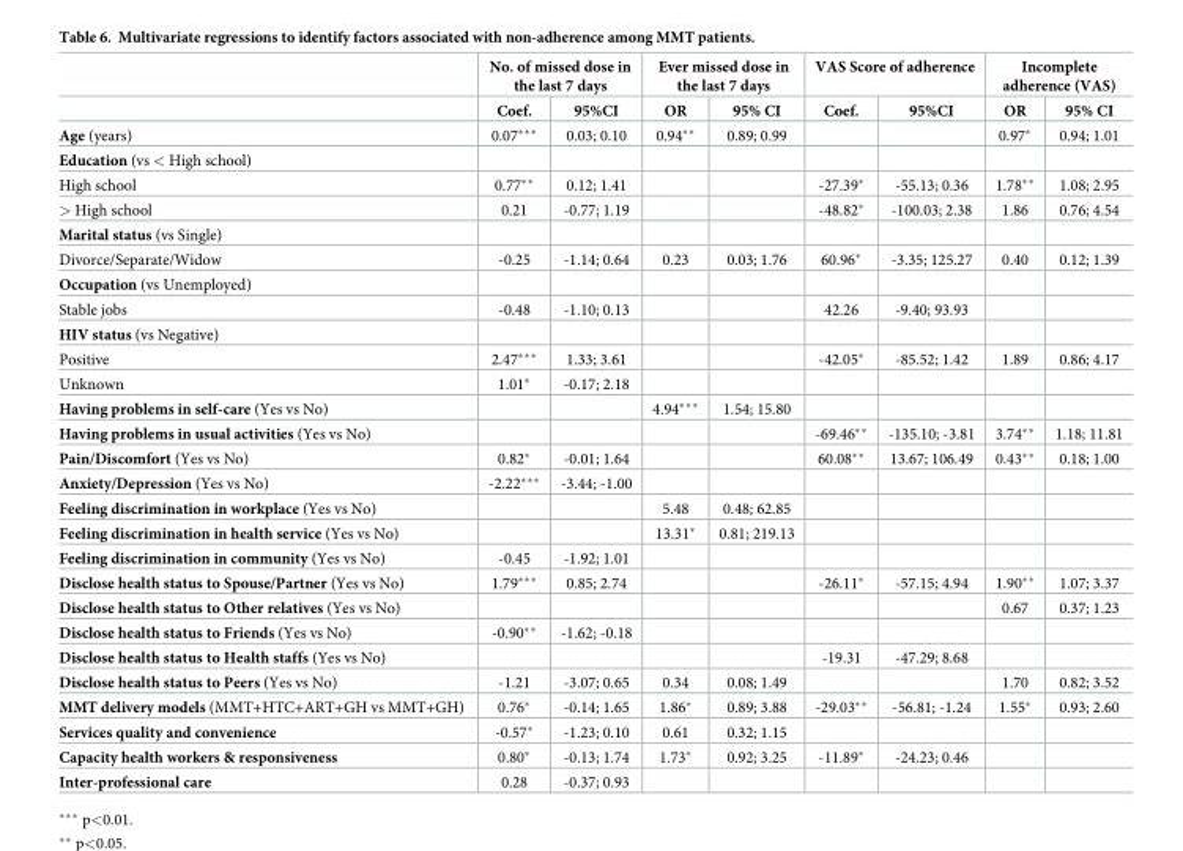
<table><thead><tr><td rowspan="2"></td><td colspan="2">No. of missed dose in the last 7 days</td><td colspan="2">Ever missed dose in the last 7 days</td><td colspan="2">VAS Score of adherence</td><td colspan="2">Incomplete adherence (VAS)</td></tr><tr><td>Coef.</td><td>95%CI</td><td>OR</td><td>95% CI</td><td>Coef.</td><td>95%CI</td><td>OR</td><td>95% CI</td></tr></thead><tbody><tr><td>Age (years)</td><td>0.07***</td><td>0.03; 0.10</td><td>0.94**</td><td>0.89; 0.99</td><td></td><td></td><td>0.97*</td><td>0.94; 1.01</td></tr><tr><td colspan="9">Education (vs &lt; High school)</td></tr><tr><td>High school</td><td>0.77**</td><td>0.12; 1.41</td><td></td><td></td><td>-27.39*</td><td>-55.13; 0.36</td><td>1.78**</td><td>1.08; 2.95</td></tr><tr><td>&gt; High school</td><td>0.21</td><td>-0.77; 1.19</td><td></td><td></td><td>-48.82*</td><td>-100.03; 2.38</td><td>1.86</td><td>0.76; 4.54</td></tr><tr><td colspan="9">Marital status (vs Single)</td></tr><tr><td>Divorce/Separate/Widow</td><td>-0.25</td><td>-1.14; 0.64</td><td>0.23</td><td>0.03; 1.76</td><td>60.96*</td><td>-3.35; 125.27</td><td>0.40</td><td>0.12; 1.39</td></tr><tr><td colspan="9">Occupation (vs Unemployed)</td></tr><tr><td>Stable jobs</td><td>-0.48</td><td>-1.10; 0.13</td><td></td><td></td><td>42.26</td><td>-9.40; 93.93</td><td></td><td></td></tr><tr><td colspan="9">HIV status (vs Negative)</td></tr><tr><td>Positive</td><td>2.47***</td><td>1.33; 3.61</td><td></td><td></td><td>-42.05*</td><td>-85.52; 1.42</td><td>1.89</td><td>0.86; 4.17</td></tr><tr><td>Unknown</td><td>1.01*</td><td>-0.17; 2.18</td><td></td><td></td><td></td><td></td><td></td><td></td></tr><tr><td>Having problems in self-care (Yes vs No)</td><td></td><td></td><td>4.94***</td><td>1.54; 15.80</td><td></td><td></td><td></td><td></td></tr><tr><td>Having problems in usual activities (Yes vs No)</td><td></td><td></td><td></td><td></td><td>-69.46**</td><td>-135.10; -3.81</td><td>3.74**</td><td>1.18; 11.81</td></tr><tr><td>Pain/Discomfort (Yes vs No)</td><td>0.82*</td><td>-0.01; 1.64</td><td></td><td></td><td>60.08**</td><td>13.67; 106.49</td><td>0.43**</td><td>0.18; 1.00</td></tr><tr><td>Anxiety/Depression (Yes vs No)</td><td>-2.22***</td><td>-3.44; -1.00</td><td></td><td></td><td></td><td></td><td></td><td></td></tr><tr><td>Feeling discrimination in workplace (Yes vs No)</td><td></td><td></td><td>5.48</td><td>0.48; 62.85</td><td></td><td></td><td></td><td></td></tr><tr><td>Feeling discrimination in health service (Yes vs No)</td><td></td><td></td><td>13.31*</td><td>0.81; 219.13</td><td></td><td></td><td></td><td></td></tr><tr><td>Feeling discrimination in community (Yes vs No)</td><td>-0.45</td><td>-1.92; 1.01</td><td></td><td></td><td></td><td></td><td></td><td></td></tr><tr><td>Disclose health status to Spouse/Partner (Yes vs No)</td><td>1.79***</td><td>0.85; 2.74</td><td></td><td></td><td>-26.11*</td><td>-57.15; 4.94</td><td>1.90**</td><td>1.07; 3.37</td></tr><tr><td>Disclose health status to Other relatives (Yes vs No)</td><td></td><td></td><td></td><td></td><td></td><td></td><td>0.67</td><td>0.37; 1.23</td></tr><tr><td>Disclose health status to Friends (Yes vs No)</td><td>-0.90**</td><td>-1.62; -0.18</td><td></td><td></td><td></td><td></td><td></td><td></td></tr><tr><td>Disclose health status to Health staffs (Yes vs No)</td><td></td><td></td><td></td><td></td><td>-19.31</td><td>-47.29; 8.68</td><td></td><td></td></tr><tr><td>Disclose health status to Peers (Yes vs No)</td><td>-1.21</td><td>-3.07; 0.65</td><td>0.34</td><td>0.08; 1.49</td><td></td><td></td><td>1.70</td><td>0.82; 3.52</td></tr><tr><td>MMT delivery models (MMT+HTC+ART+GH vs MMT+GH)</td><td>0.76*</td><td>-0.14; 1.65</td><td>1.86*</td><td>0.89; 3.88</td><td>-29.03**</td><td>-56.81; -1.24</td><td>1.55*</td><td>0.93; 2.60</td></tr><tr><td>Services quality and convenience</td><td>-0.57*</td><td>-1.23; 0.10</td><td>0.61</td><td>0.32; 1.15</td><td></td><td></td><td></td><td></td></tr><tr><td>Capacity health workers &amp; responsiveness</td><td>0.80*</td><td>-0.13; 1.74</td><td>1.73*</td><td>0.92; 3.25</td><td>-11.89*</td><td>-24.23; 0.46</td><td></td><td></td></tr><tr><td>Inter-professional care</td><td>0.28</td><td>-0.37; 0.93</td><td></td><td></td><td></td><td></td><td></td><td></td></tr></tbody></table>